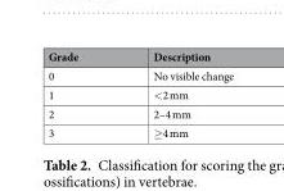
<table><thead><tr><td>Grade</td><td>Description</td></tr></thead><tbody><tr><td>0</td><td>No visible change</td></tr><tr><td>1</td><td>&lt;2 mm</td></tr><tr><td>2</td><td>2–4 mm</td></tr><tr><td>3</td><td>≥4 mm</td></tr></tbody></table>